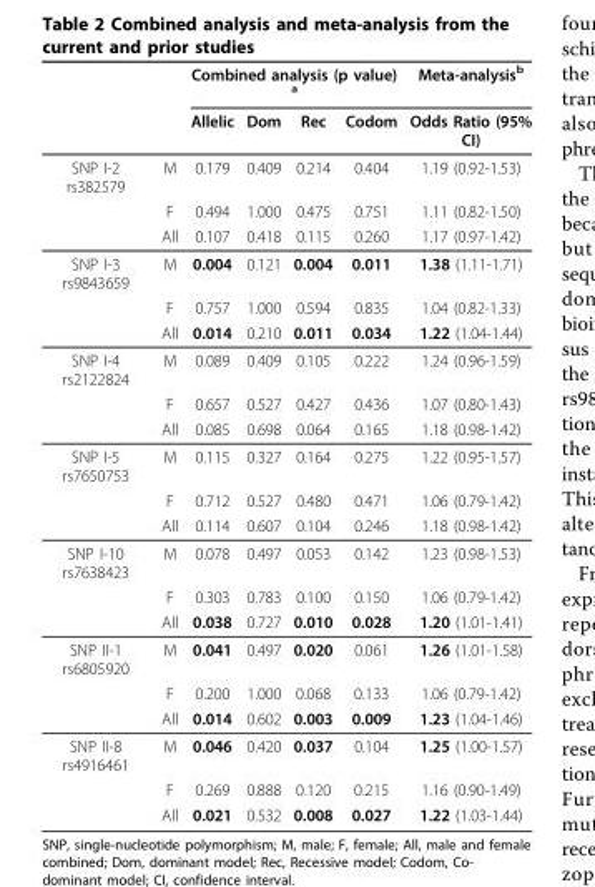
<table><thead><tr><td rowspan="2"></td><td rowspan="2"></td><td colspan="4">Combined analysis (p value) <sup>a</sup></td><td rowspan="2">Meta-analysis<sup>b</sup> Odds Ratio (95% CI)</td></tr><tr><td>Allelic</td><td>Dom</td><td>Rec</td><td>Codom</td></tr></thead><tbody><tr><td rowspan="3">SNP I-2 rs382579</td><td>M</td><td>0.179</td><td>0.409</td><td>0.214</td><td>0.404</td><td>1.19 (0.92-1.53)</td></tr><tr><td>F</td><td>0.494</td><td>1.000</td><td>0.475</td><td>0.751</td><td>1.11 (0.82-1.50)</td></tr><tr><td>All</td><td>0.107</td><td>0.418</td><td>0.115</td><td>0.260</td><td>1.17 (0.97-1.42)</td></tr><tr><td rowspan="3">SNP I-3 rs9843659</td><td>M</td><td>0.004</td><td>0.121</td><td>0.004</td><td>0.011</td><td>1.38 (1.11-1.71)</td></tr><tr><td>F</td><td>0.757</td><td>1.000</td><td>0.594</td><td>0.835</td><td>1.04 (0.82-1.33)</td></tr><tr><td>All</td><td>0.014</td><td>0.210</td><td>0.011</td><td>0.034</td><td>1.22 (1.04-1.44)</td></tr><tr><td rowspan="3">SNP I-4 rs2122824</td><td>M</td><td>0.089</td><td>0.409</td><td>0.105</td><td>0.222</td><td>1.24 (0.96-1.59)</td></tr><tr><td>F</td><td>0.657</td><td>0.527</td><td>0.427</td><td>0.436</td><td>1.07 (0.80-1.43)</td></tr><tr><td>All</td><td>0.085</td><td>0.698</td><td>0.064</td><td>0.165</td><td>1.18 (0.98-1.42)</td></tr><tr><td rowspan="3">SNP I-5 rs7650753</td><td>M</td><td>0.115</td><td>0.327</td><td>0.164</td><td>0.275</td><td>1.22 (0.95-1.57)</td></tr><tr><td>F</td><td>0.712</td><td>0.527</td><td>0.480</td><td>0.471</td><td>1.06 (0.79-1.42)</td></tr><tr><td>All</td><td>0.114</td><td>0.607</td><td>0.104</td><td>0.246</td><td>1.18 (0.98-1.42)</td></tr><tr><td rowspan="3">SNP I-10 rs7638423</td><td>M</td><td>0.078</td><td>0.497</td><td>0.053</td><td>0.142</td><td>1.23 (0.98-1.53)</td></tr><tr><td>F</td><td>0.303</td><td>0.783</td><td>0.100</td><td>0.150</td><td>1.06 (0.79-1.42)</td></tr><tr><td>All</td><td>0.038</td><td>0.727</td><td>0.010</td><td>0.028</td><td>1.20 (1.01-1.41)</td></tr><tr><td rowspan="3">SNP II-1 rs6805920</td><td>M</td><td>0.041</td><td>0.497</td><td>0.020</td><td>0.061</td><td>1.26 (1.01-1.58)</td></tr><tr><td>F</td><td>0.200</td><td>1.000</td><td>0.068</td><td>0.133</td><td>1.06 (0.79-1.42)</td></tr><tr><td>All</td><td>0.014</td><td>0.602</td><td>0.003</td><td>0.009</td><td>1.23 (1.04-1.46)</td></tr><tr><td rowspan="3">SNP II-8 rs4916461</td><td>M</td><td>0.046</td><td>0.420</td><td>0.037</td><td>0.104</td><td>1.25 (1.00-1.57)</td></tr><tr><td>F</td><td>0.269</td><td>0.888</td><td>0.120</td><td>0.215</td><td>1.16 (0.90-1.49)</td></tr><tr><td>All</td><td>0.021</td><td>0.532</td><td>0.008</td><td>0.027</td><td>1.22 (1.03-1.44)</td></tr></tbody></table>